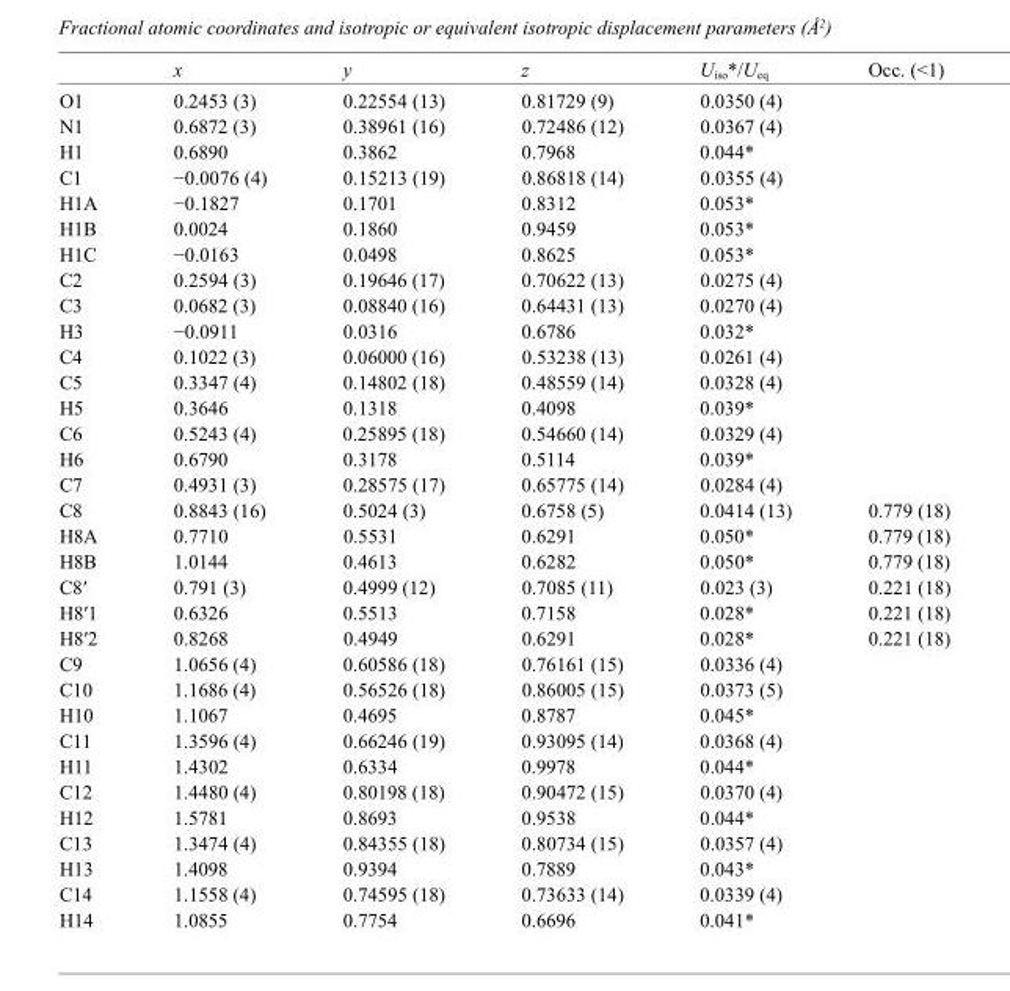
<table><thead><tr><td></td><td>x</td><td>y</td><td>z</td><td>U<sub>iso</sub>*/U<sub>eq</sub></td><td>Occ. (&lt;1)</td></tr></thead><tbody><tr><td>O1</td><td>0.2453 (3)</td><td>0.22554 (13)</td><td>0.81729 (9)</td><td>0.0350 (4)</td><td></td></tr><tr><td>N1</td><td>0.6872 (3)</td><td>0.38961 (16)</td><td>0.72486 (12)</td><td>0.0367 (4)</td><td></td></tr><tr><td>H1</td><td>0.6890</td><td>0.3862</td><td>0.7968</td><td>0.044*</td><td></td></tr><tr><td>C1</td><td>−0.0076 (4)</td><td>0.15213 (19)</td><td>0.86818 (14)</td><td>0.0355 (4)</td><td></td></tr><tr><td>H1A</td><td>−0.1827</td><td>0.1701</td><td>0.8312</td><td>0.053*</td><td></td></tr><tr><td>H1B</td><td>0.0024</td><td>0.1860</td><td>0.9459</td><td>0.053*</td><td></td></tr><tr><td>H1C</td><td>−0.0163</td><td>0.0498</td><td>0.8625</td><td>0.053*</td><td></td></tr><tr><td>C2</td><td>0.2594 (3)</td><td>0.19646 (17)</td><td>0.70622 (13)</td><td>0.0275 (4)</td><td></td></tr><tr><td>C3</td><td>0.0682 (3)</td><td>0.08840 (16)</td><td>0.64431 (13)</td><td>0.0270 (4)</td><td></td></tr><tr><td>H3</td><td>−0.0911</td><td>0.0316</td><td>0.6786</td><td>0.032*</td><td></td></tr><tr><td>C4</td><td>0.1022 (3)</td><td>0.06000 (16)</td><td>0.53238 (13)</td><td>0.0261 (4)</td><td></td></tr><tr><td>C5</td><td>0.3347 (4)</td><td>0.14802 (18)</td><td>0.48559 (14)</td><td>0.0328 (4)</td><td></td></tr><tr><td>H5</td><td>0.3646</td><td>0.1318</td><td>0.4098</td><td>0.039*</td><td></td></tr><tr><td>C6</td><td>0.5243 (4)</td><td>0.25895 (18)</td><td>0.54660 (14)</td><td>0.0329 (4)</td><td></td></tr><tr><td>H6</td><td>0.6790</td><td>0.3178</td><td>0.5114</td><td>0.039*</td><td></td></tr><tr><td>C7</td><td>0.4931 (3)</td><td>0.28575 (17)</td><td>0.65775 (14)</td><td>0.0284 (4)</td><td></td></tr><tr><td>C8</td><td>0.8843 (16)</td><td>0.5024 (3)</td><td>0.6758 (5)</td><td>0.0414 (13)</td><td>0.779 (18)</td></tr><tr><td>H8A</td><td>0.7710</td><td>0.5531</td><td>0.6291</td><td>0.050*</td><td>0.779 (18)</td></tr><tr><td>H8B</td><td>1.0144</td><td>0.4613</td><td>0.6282</td><td>0.050*</td><td>0.779 (18)</td></tr><tr><td>C8′</td><td>0.791 (3)</td><td>0.4999 (12)</td><td>0.7085 (11)</td><td>0.023 (3)</td><td>0.221 (18)</td></tr><tr><td>H8′1</td><td>0.6326</td><td>0.5513</td><td>0.7158</td><td>0.028*</td><td>0.221 (18)</td></tr><tr><td>H8′2</td><td>0.8268</td><td>0.4949</td><td>0.6291</td><td>0.028*</td><td>0.221 (18)</td></tr><tr><td>C9</td><td>1.0656 (4)</td><td>0.60586 (18)</td><td>0.76161 (15)</td><td>0.0336 (4)</td><td></td></tr><tr><td>C10</td><td>1.1686 (4)</td><td>0.56526 (18)</td><td>0.86005 (15)</td><td>0.0373 (5)</td><td></td></tr><tr><td>H10</td><td>1.1067</td><td>0.4695</td><td>0.8787</td><td>0.045*</td><td></td></tr><tr><td>C11</td><td>1.3596 (4)</td><td>0.66246 (19)</td><td>0.93095 (14)</td><td>0.0368 (4)</td><td></td></tr><tr><td>H11</td><td>1.4302</td><td>0.6334</td><td>0.9978</td><td>0.044*</td><td></td></tr><tr><td>C12</td><td>1.4480 (4)</td><td>0.80198 (18)</td><td>0.90472 (15)</td><td>0.0370 (4)</td><td></td></tr><tr><td>H12</td><td>1.5781</td><td>0.8693</td><td>0.9538</td><td>0.044*</td><td></td></tr><tr><td>C13</td><td>1.3474 (4)</td><td>0.84355 (18)</td><td>0.80734 (15)</td><td>0.0357 (4)</td><td></td></tr><tr><td>H13</td><td>1.4098</td><td>0.9394</td><td>0.7889</td><td>0.043*</td><td></td></tr><tr><td>C14</td><td>1.1558 (4)</td><td>0.74595 (18)</td><td>0.73633 (14)</td><td>0.0339 (4)</td><td></td></tr><tr><td>H14</td><td>1.0855</td><td>0.7754</td><td>0.6696</td><td>0.041*</td><td></td></tr></tbody></table>